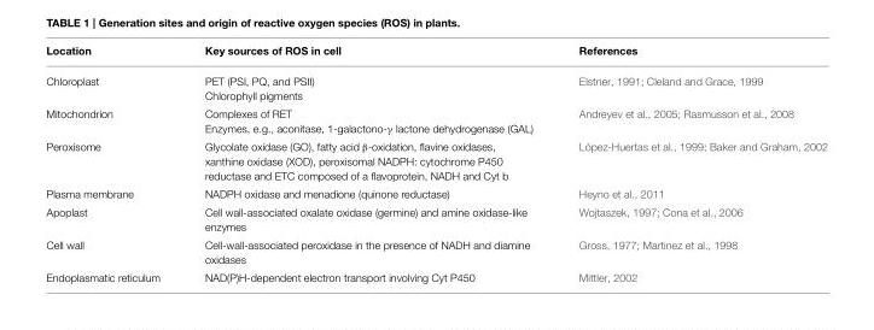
<table><thead><tr><td>Location</td><td>Key sources of ROS in cell</td><td>References</td></tr></thead><tbody><tr><td>Chloroplast</td><td>PET (PSI, PQ, and PSII) Chlorophyll pigments</td><td>Elstner, 1991; Cleland and Grace, 1999</td></tr><tr><td>Mitochondrion</td><td>Complexes of RET Enzymes, e.g., aconitase, 1-galactono-γ lactone dehydrogenase (GAL)</td><td>Andreyev et al., 2005; Rasmusson et al., 2008</td></tr><tr><td>Peroxisome</td><td>Glycolate oxidase (GO), fatty acid β-oxidation, flavine oxidases, xanthine oxidase (XOD), peroxisomal NADPH: cytochrome P450 reductase and ETC composed of a flavoprotein, NADH and Cyt b</td><td>López-Huertas et al., 1999; Baker and Graham, 2002</td></tr><tr><td>Plasma membrane</td><td>NADPH oxidase and menadione (quinone reductase)</td><td>Heyno et al., 2011</td></tr><tr><td>Apoplast</td><td>Cell wall-associated oxalate oxidase (germine) and amine oxidase-like enzymes</td><td>Wojtaszek, 1997; Cona et al., 2006</td></tr><tr><td>Cell wall</td><td>Cell-wall-associated peroxidase in the presence of NADH and diamine oxidases</td><td>Gross, 1977; Martinez et al., 1998</td></tr><tr><td>Endoplasmatic reticulum</td><td>NAD(P)H-dependent electron transport involving Cyt P450</td><td>Mittler, 2002</td></tr></tbody></table>